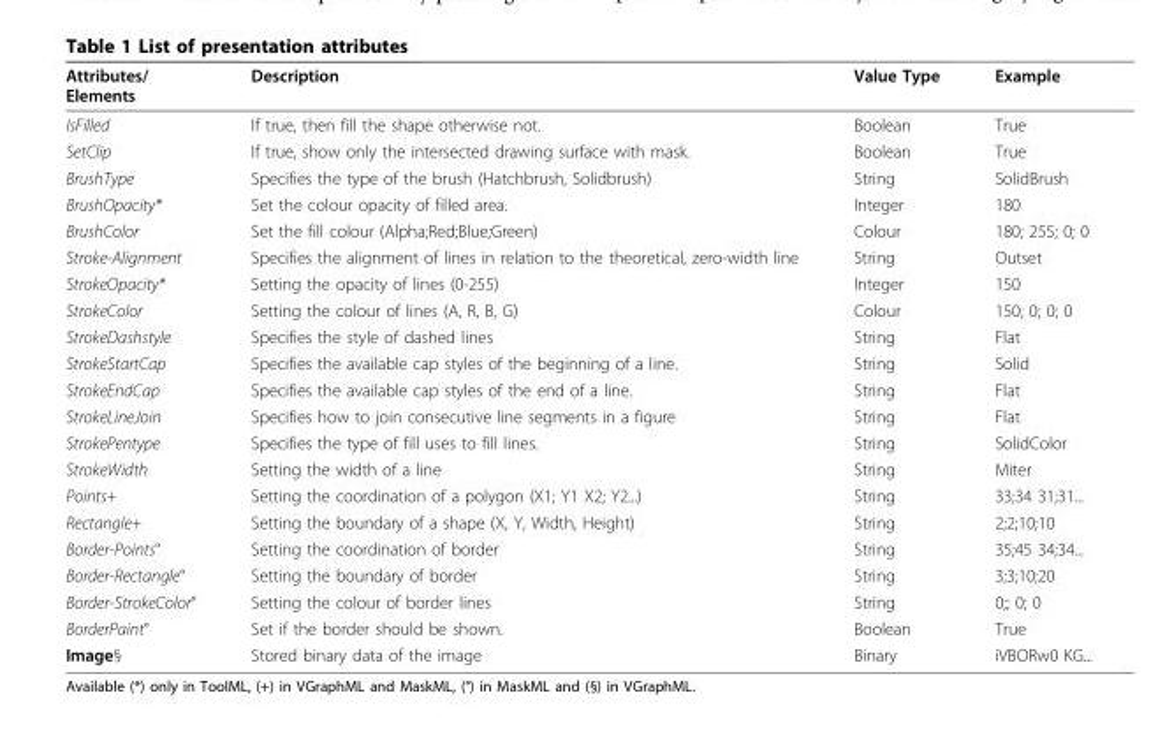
<table><thead><tr><td>Attributes/ Elements</td><td>Description</td><td>Value Type</td><td>Example</td></tr></thead><tbody><tr><td>IsFilled</td><td>If true, then fill the shape otherwise not.</td><td>Boolean</td><td>True</td></tr><tr><td>SetClip</td><td>If true, show only the intersected drawing surface with mask.</td><td>Boolean</td><td>True</td></tr><tr><td>BrushType</td><td>Specifies the type of the brush (Hatchbrush, Solidbrush)</td><td>String</td><td>SolidBrush</td></tr><tr><td>BrushOpacity*</td><td>Set the colour opacity of filled area.</td><td>Integer</td><td>180</td></tr><tr><td>BrushColor</td><td>Set the fill colour (Alpha;Red;Blue;Green)</td><td>Colour</td><td>180; 255; 0; 0</td></tr><tr><td>Stroke-Alignment</td><td>Specifies the alignment of lines in relation to the theoretical, zero-width line</td><td>String</td><td>Outset</td></tr><tr><td>StrokeOpacity*</td><td>Setting the opacity of lines (0-255)</td><td>Integer</td><td>150</td></tr><tr><td>StrokeColor</td><td>Setting the colour of lines (A, R, B, G)</td><td>Colour</td><td>150; 0; 0; 0</td></tr><tr><td>StrokeDashstyle</td><td>Specifies the style of dashed lines</td><td>String</td><td>Flat</td></tr><tr><td>StrokeStartCap</td><td>Specifies the available cap styles of the beginning of a line.</td><td>String</td><td>Solid</td></tr><tr><td>StrokeEndCap</td><td>Specifies the available cap styles of the end of a line.</td><td>String</td><td>Flat</td></tr><tr><td>StrokeLineJoin</td><td>Specifies how to join consecutive line segments in a figure</td><td>String</td><td>Flat</td></tr><tr><td>StrokePentype</td><td>Specifies the type of fill uses to fill lines.</td><td>String</td><td>SolidColor</td></tr><tr><td>StrokeWidth</td><td>Setting the width of a line</td><td>String</td><td>Miter</td></tr><tr><td>Points+</td><td>Setting the coordination of a polygon (X1; Y1 X2; Y2...)</td><td>String</td><td>33;34 31;31...</td></tr><tr><td>Rectangle+</td><td>Setting the boundary of a shape (X, Y, Width, Height)</td><td>String</td><td>2;2;10;10</td></tr><tr><td>Border-Points°</td><td>Setting the coordination of border</td><td>String</td><td>35;45 34;34...</td></tr><tr><td>Border-Rectangle°</td><td>Setting the boundary of border</td><td>String</td><td>3;3;10;20</td></tr><tr><td>Border-StrokeColor°</td><td>Setting the colour of border lines</td><td>String</td><td>0;; 0; 0</td></tr><tr><td>BorderPaint°</td><td>Set if the border should be shown.</td><td>Boolean</td><td>True</td></tr><tr><td>Image§</td><td>Stored binary data of the image</td><td>Binary</td><td>iVBORw0 KG...</td></tr></tbody></table>